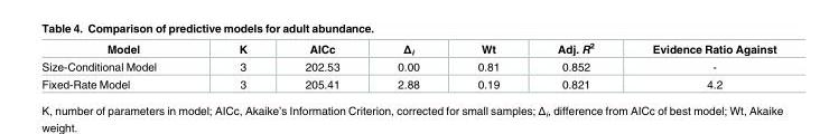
<table><thead><tr><td>Model</td><td>K</td><td>AICc</td><td>Δ<sub>i</sub></td><td>Wt</td><td>Adj. R<sup>2</sup></td><td>Evidence Ratio Against</td></tr></thead><tbody><tr><td>Size-Conditional Model</td><td>3</td><td>202.53</td><td>0.00</td><td>0.81</td><td>0.852</td><td>-</td></tr><tr><td>Fixed-Rate Model</td><td>3</td><td>205.41</td><td>2.88</td><td>0.19</td><td>0.821</td><td>4.2</td></tr></tbody></table>